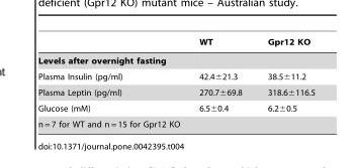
<table><thead><tr><td></td><td>WT</td><td>Gpr12 KO</td></tr></thead><tbody><tr><td colspan="3">Levels after overnight fasting</td></tr><tr><td>Plasma Insulin (pg/ml)</td><td>42.4±21.3</td><td>38.5±11.2</td></tr><tr><td>Plasma Leptin (pg/ml)</td><td>270.7±69.8</td><td>318.6±116.5</td></tr><tr><td>Glucose (mM)</td><td>6.5±0.4</td><td>6.2±0.5</td></tr><tr><td>n = 7 for WT and n = 15 for Gpr12 KO</td><td></td><td></td></tr></tbody></table>